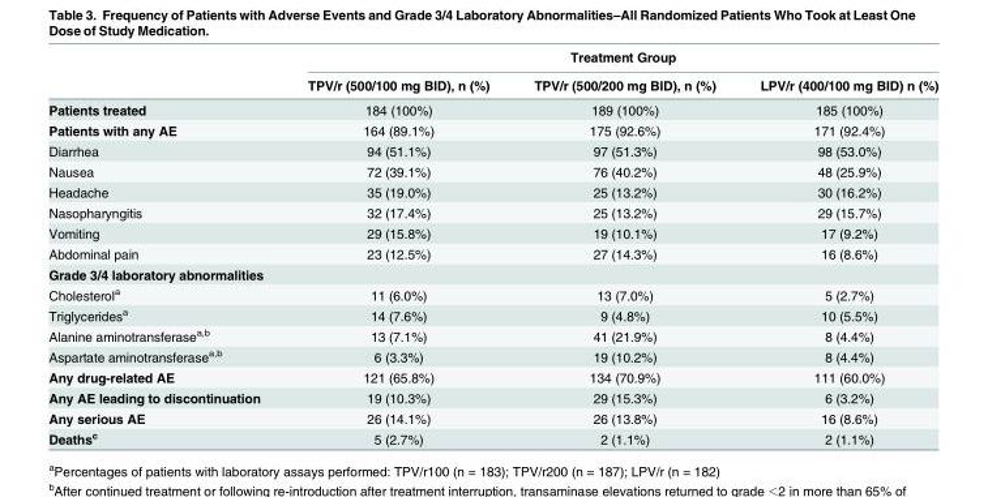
<table><thead><tr><td rowspan="2"></td><td colspan="3">Treatment Group</td></tr><tr><td>TPV/r (500/100 mg BID), n (%)</td><td>TPV/r (500/200 mg BID), n (%)</td><td>LPV/r (400/100 mg BID) n (%)</td></tr></thead><tbody><tr><td>Patients treated</td><td>184 (100%)</td><td>189 (100%)</td><td>185 (100%)</td></tr><tr><td>Patients with any AE</td><td>164 (89.1%)</td><td>175 (92.6%)</td><td>171 (92.4%)</td></tr><tr><td>Diarrhea</td><td>94 (51.1%)</td><td>97 (51.3%)</td><td>98 (53.0%)</td></tr><tr><td>Nausea</td><td>72 (39.1%)</td><td>76 (40.2%)</td><td>48 (25.9%)</td></tr><tr><td>Headache</td><td>35 (19.0%)</td><td>25 (13.2%)</td><td>30 (16.2%)</td></tr><tr><td>Nasopharyngitis</td><td>32 (17.4%)</td><td>25 (13.2%)</td><td>29 (15.7%)</td></tr><tr><td>Vomiting</td><td>29 (15.8%)</td><td>19 (10.1%)</td><td>17 (9.2%)</td></tr><tr><td>Abdominal pain</td><td>23 (12.5%)</td><td>27 (14.3%)</td><td>16 (8.6%)</td></tr><tr><td colspan="4">Grade 3/4 laboratory abnormalities</td></tr><tr><td>Cholesterol<sup>a</sup></td><td>11 (6.0%)</td><td>13 (7.0%)</td><td>5 (2.7%)</td></tr><tr><td>Triglycerides<sup>a</sup></td><td>14 (7.6%)</td><td>9 (4.8%)</td><td>10 (5.5%)</td></tr><tr><td>Alanine aminotransferase<sup>a,b</sup></td><td>13 (7.1%)</td><td>41 (21.9%)</td><td>8 (4.4%)</td></tr><tr><td>Aspartate aminotransferase<sup>a,b</sup></td><td>6 (3.3%)</td><td>19 (10.2%)</td><td>8 (4.4%)</td></tr><tr><td>Any drug-related AE</td><td>121 (65.8%)</td><td>134 (70.9%)</td><td>111 (60.0%)</td></tr><tr><td>Any AE leading to discontinuation</td><td>19 (10.3%)</td><td>29 (15.3%)</td><td>6 (3.2%)</td></tr><tr><td>Any serious AE</td><td>26 (14.1%)</td><td>26 (13.8%)</td><td>16 (8.6%)</td></tr><tr><td>Deaths<sup>c</sup></td><td>5 (2.7%)</td><td>2 (1.1%)</td><td>2 (1.1%)</td></tr></tbody></table>